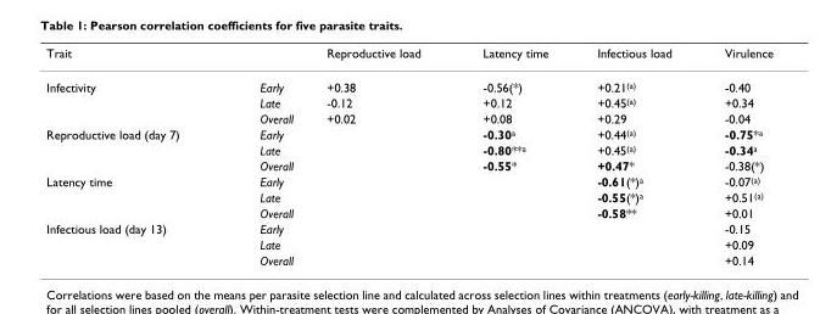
<table><thead><tr><td>Trait</td><td></td><td>Reproductive load</td><td>Latency time</td><td>Infectious load</td><td>Virulence</td></tr></thead><tbody><tr><td rowspan="3">Infectivity</td><td>Early</td><td>+0.38</td><td>-0.56(*)</td><td>+0.21<sup>(a)</sup></td><td>-0.40</td></tr><tr><td>Late</td><td>-0.12</td><td>+0.12</td><td>+0.45<sup>(a)</sup></td><td>+0.34</td></tr><tr><td>Overall</td><td>+0.02</td><td>+0.08</td><td>+0.29</td><td>-0.04</td></tr><tr><td rowspan="3">Reproductive load (day 7)</td><td>Early</td><td></td><td>-0.30<sup>a</sup></td><td>+0.44<sup>(a)</sup></td><td>-0.75*<sup>a</sup></td></tr><tr><td>Late</td><td></td><td>-0.80**<sup>a</sup></td><td>+0.45<sup>(a)</sup></td><td>-0.34<sup>a</sup></td></tr><tr><td>Overall</td><td></td><td>-0.55*</td><td>+0.47*</td><td>-0.38(*)</td></tr><tr><td rowspan="3">Latency time</td><td>Early</td><td></td><td></td><td>-0.61(*)<sup>a</sup></td><td>-0.07<sup>(a)</sup></td></tr><tr><td>Late</td><td></td><td></td><td>-0.55(*)<sup>a</sup></td><td>+0.51<sup>(a)</sup></td></tr><tr><td>Overall</td><td></td><td></td><td>-0.58**</td><td>+0.01</td></tr><tr><td rowspan="3">Infectious load (day 13)</td><td>Early</td><td></td><td></td><td></td><td>-0.15</td></tr><tr><td>Late</td><td></td><td></td><td></td><td>+0.09</td></tr><tr><td>Overall</td><td></td><td></td><td></td><td>+0.14</td></tr></tbody></table>